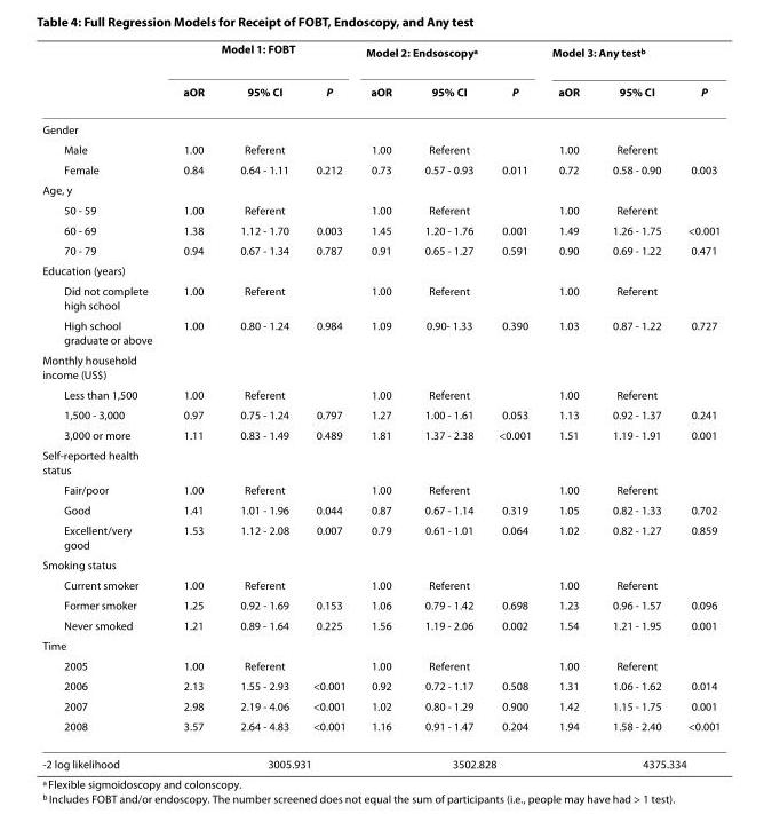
<table><thead><tr><td rowspan="2"></td><td colspan="3">Model 1: FOBT</td><td colspan="3">Model 2: Endsoscopy<sup>a</sup></td><td colspan="3">Model 3: Any test<sup>b</sup></td></tr><tr><td>aOR</td><td>95% CI</td><td>P</td><td>aOR</td><td>95% CI</td><td>P</td><td>aOR</td><td>95% CI</td><td>P</td></tr></thead><tbody><tr><td colspan="10">Gender</td></tr><tr><td>Male</td><td>1.00</td><td>Referent</td><td></td><td>1.00</td><td>Referent</td><td></td><td>1.00</td><td>Referent</td><td></td></tr><tr><td>Female</td><td>0.84</td><td>0.64 - 1.11</td><td>0.212</td><td>0.73</td><td>0.57 - 0.93</td><td>0.011</td><td>0.72</td><td>0.58 - 0.90</td><td>0.003</td></tr><tr><td colspan="10">Age, y</td></tr><tr><td>50 - 59</td><td>1.00</td><td>Referent</td><td></td><td>1.00</td><td>Referent</td><td></td><td>1.00</td><td>Referent</td><td></td></tr><tr><td>60 - 69</td><td>1.38</td><td>1.12 - 1.70</td><td>0.003</td><td>1.45</td><td>1.20 - 1.76</td><td>0.001</td><td>1.49</td><td>1.26 - 1.75</td><td>&lt;0.001</td></tr><tr><td>70 - 79</td><td>0.94</td><td>0.67 - 1.34</td><td>0.787</td><td>0.91</td><td>0.65 - 1.27</td><td>0.591</td><td>0.90</td><td>0.69 - 1.22</td><td>0.471</td></tr><tr><td colspan="10">Education (years)</td></tr><tr><td>Did not complete high school</td><td>1.00</td><td>Referent</td><td></td><td>1.00</td><td>Referent</td><td></td><td>1.00</td><td>Referent</td><td></td></tr><tr><td>High school graduate or above</td><td>1.00</td><td>0.80 - 1.24</td><td>0.984</td><td>1.09</td><td>0.90- 1.33</td><td>0.390</td><td>1.03</td><td>0.87 - 1.22</td><td>0.727</td></tr><tr><td colspan="10">Monthly household income (US$)</td></tr><tr><td>Less than 1,500</td><td>1.00</td><td>Referent</td><td></td><td>1.00</td><td>Referent</td><td></td><td>1.00</td><td>Referent</td><td></td></tr><tr><td>1,500 - 3,000</td><td>0.97</td><td>0.75 - 1.24</td><td>0.797</td><td>1.27</td><td>1.00 - 1.61</td><td>0.053</td><td>1.13</td><td>0.92 - 1.37</td><td>0.241</td></tr><tr><td>3,000 or more</td><td>1.11</td><td>0.83 - 1.49</td><td>0.489</td><td>1.81</td><td>1.37 - 2.38</td><td>&lt;0.001</td><td>1.51</td><td>1.19 - 1.91</td><td>0.001</td></tr><tr><td colspan="10">Self-reported health status</td></tr><tr><td>Fair/poor</td><td>1.00</td><td>Referent</td><td></td><td>1.00</td><td>Referent</td><td></td><td>1.00</td><td>Referent</td><td></td></tr><tr><td>Good</td><td>1.41</td><td>1.01 - 1.96</td><td>0.044</td><td>0.87</td><td>0.67 - 1.14</td><td>0.319</td><td>1.05</td><td>0.82 - 1.33</td><td>0.702</td></tr><tr><td>Excellent/very good</td><td>1.53</td><td>1.12 - 2.08</td><td>0.007</td><td>0.79</td><td>0.61 - 1.01</td><td>0.064</td><td>1.02</td><td>0.82 - 1.27</td><td>0.859</td></tr><tr><td colspan="10">Smoking status</td></tr><tr><td>Current smoker</td><td>1.00</td><td>Referent</td><td></td><td>1.00</td><td>Referent</td><td></td><td>1.00</td><td>Referent</td><td></td></tr><tr><td>Former smoker</td><td>1.25</td><td>0.92 - 1.69</td><td>0.153</td><td>1.06</td><td>0.79 - 1.42</td><td>0.698</td><td>1.23</td><td>0.96 - 1.57</td><td>0.096</td></tr><tr><td>Never smoked</td><td>1.21</td><td>0.89 - 1.64</td><td>0.225</td><td>1.56</td><td>1.19 - 2.06</td><td>0.002</td><td>1.54</td><td>1.21 - 1.95</td><td>0.001</td></tr><tr><td colspan="10">Time</td></tr><tr><td>2005</td><td>1.00</td><td>Referent</td><td></td><td>1.00</td><td>Referent</td><td></td><td>1.00</td><td>Referent</td><td></td></tr><tr><td>2006</td><td>2.13</td><td>1.55 - 2.93</td><td>&lt;0.001</td><td>0.92</td><td>0.72 - 1.17</td><td>0.508</td><td>1.31</td><td>1.06 - 1.62</td><td>0.014</td></tr><tr><td>2007</td><td>2.98</td><td>2.19 - 4.06</td><td>&lt;0.001</td><td>1.02</td><td>0.80 - 1.29</td><td>0.900</td><td>1.42</td><td>1.15 - 1.75</td><td>0.001</td></tr><tr><td>2008</td><td>3.57</td><td>2.64 - 4.83</td><td>&lt;0.001</td><td>1.16</td><td>0.91 - 1.47</td><td>0.204</td><td>1.94</td><td>1.58 - 2.40</td><td>&lt;0.001</td></tr><tr><td>-2 log likelihood</td><td></td><td colspan="2">3005.931</td><td></td><td colspan="2">3502.828</td><td></td><td colspan="2">4375.334</td></tr></tbody></table>